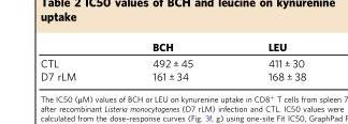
<table><thead><tr><td></td><td>BCH</td><td>LEU</td></tr></thead><tbody><tr><td>CTL</td><td>492 ± 45</td><td>411 ± 30</td></tr><tr><td>D7 rLM</td><td>161 ± 34</td><td>168 ± 38</td></tr></tbody></table>